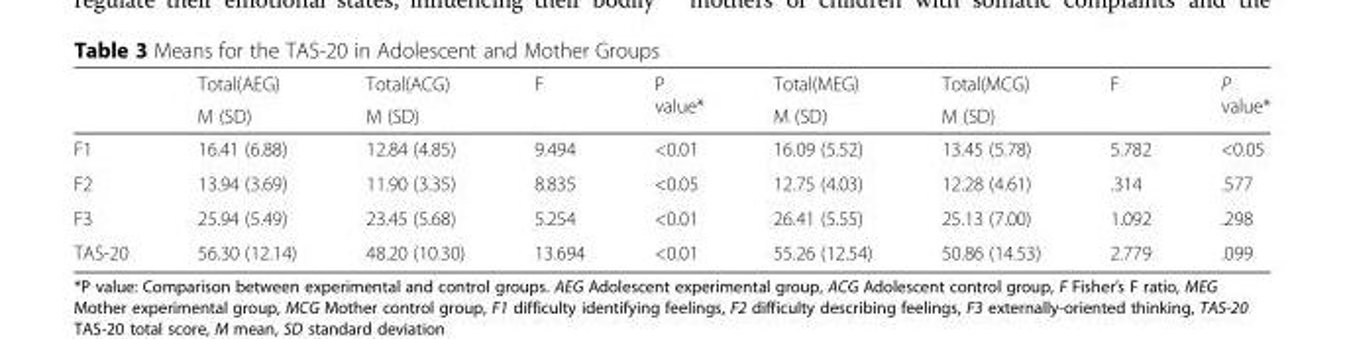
<table><thead><tr><td rowspan="2"></td><td rowspan="2">Total(AEG) M (SD)</td><td rowspan="2">Total(ACG) M (SD)</td><td rowspan="2">F</td><td rowspan="2">P value*</td><td rowspan="2">Total(MEG) M (SD)</td><td rowspan="2">Total(MCG) M (SD)</td><td rowspan="2">F</td><td rowspan="2">P value*</td></tr><tr></tr></thead><tbody><tr><td>F1</td><td>16.41 (6.88)</td><td>12.84 (4.85)</td><td>9.494</td><td>&lt;0.01</td><td>16.09 (5.52)</td><td>13.45 (5.78)</td><td>5.782</td><td>&lt;0.05</td></tr><tr><td>F2</td><td>13.94 (3.69)</td><td>11.90 (3.35)</td><td>8.835</td><td>&lt;0.05</td><td>12.75 (4.03)</td><td>12.28 (4.61)</td><td>.314</td><td>.577</td></tr><tr><td>F3</td><td>25.94 (5.49)</td><td>23.45 (5.68)</td><td>5.254</td><td>&lt;0.01</td><td>26.41 (5.55)</td><td>25.13 (7.00)</td><td>1.092</td><td>.298</td></tr><tr><td>TAS-20</td><td>56.30 (12.14)</td><td>48.20 (10.30)</td><td>13.694</td><td>&lt;0.01</td><td>55.26 (12.54)</td><td>50.86 (14.53)</td><td>2.779</td><td>.099</td></tr></tbody></table>